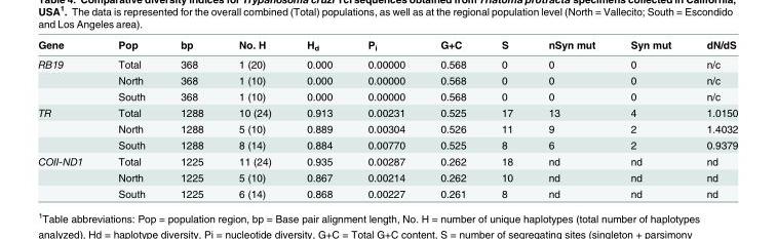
<table><thead><tr><td>Gene</td><td>Pop</td><td>bp</td><td>No. H</td><td>H<sub>d</sub></td><td>P<sub>i</sub></td><td>G+C</td><td>S</td><td>nSyn mut</td><td>Syn mut</td><td>dN/dS</td></tr></thead><tbody><tr><td rowspan="3">RB19</td><td>Total</td><td>368</td><td>1 (20)</td><td>0.000</td><td>0.00000</td><td>0.568</td><td>0</td><td>0</td><td>0</td><td>n/c</td></tr><tr><td>North</td><td>368</td><td>1 (10)</td><td>0.000</td><td>0.00000</td><td>0.568</td><td>0</td><td>0</td><td>0</td><td>n/c</td></tr><tr><td>South</td><td>368</td><td>1 (10)</td><td>0.000</td><td>0.00000</td><td>0.568</td><td>0</td><td>0</td><td>0</td><td>n/c</td></tr><tr><td rowspan="3">TR</td><td>Total</td><td>1288</td><td>10 (24)</td><td>0.913</td><td>0.00231</td><td>0.525</td><td>17</td><td>13</td><td>4</td><td>1.0150</td></tr><tr><td>North</td><td>1288</td><td>5 (10)</td><td>0.889</td><td>0.00304</td><td>0.526</td><td>11</td><td>9</td><td>2</td><td>1.4032</td></tr><tr><td>South</td><td>1288</td><td>8 (14)</td><td>0.884</td><td>0.00770</td><td>0.525</td><td>8</td><td>6</td><td>2</td><td>0.9379</td></tr><tr><td rowspan="3">COII-ND1</td><td>Total</td><td>1225</td><td>11 (24)</td><td>0.935</td><td>0.00287</td><td>0.262</td><td>18</td><td>nd</td><td>nd</td><td>nd</td></tr><tr><td>North</td><td>1225</td><td>5 (10)</td><td>0.867</td><td>0.00214</td><td>0.262</td><td>10</td><td>nd</td><td>nd</td><td>nd</td></tr><tr><td>South</td><td>1225</td><td>6 (14)</td><td>0.868</td><td>0.00227</td><td>0.261</td><td>8</td><td>nd</td><td>nd</td><td>nd</td></tr></tbody></table>